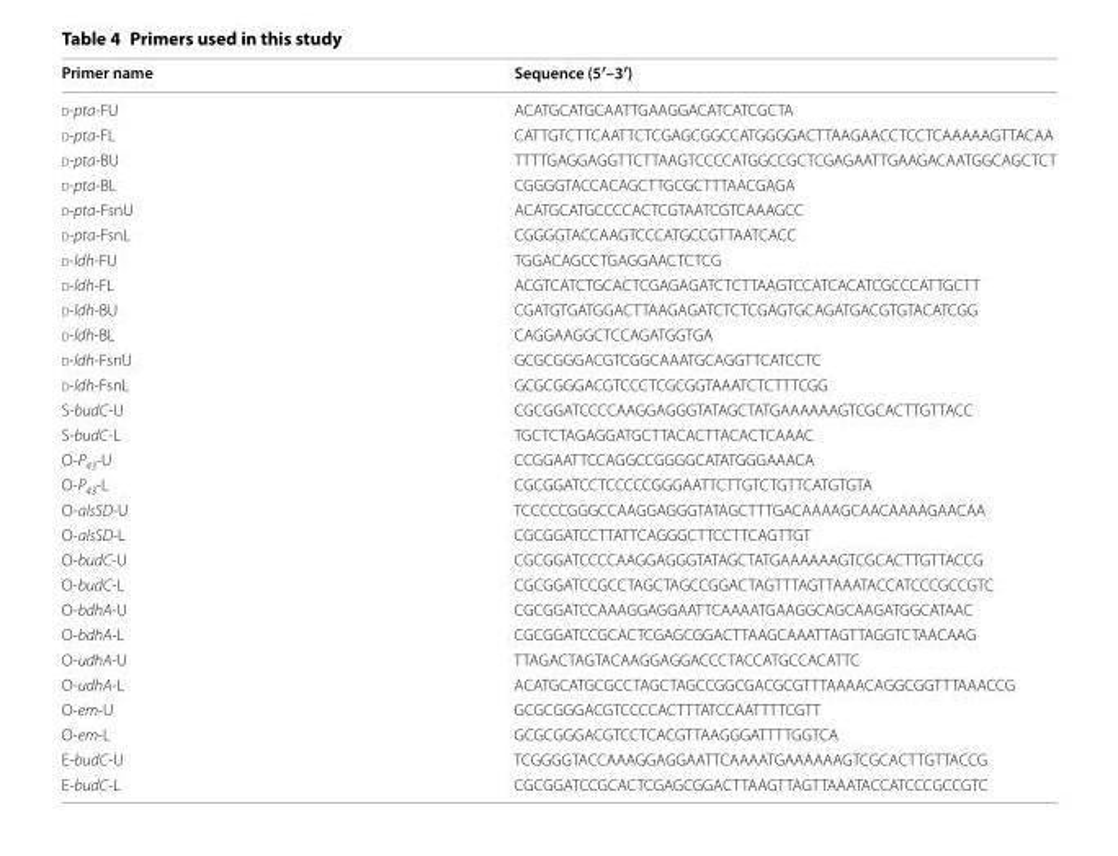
<table><thead><tr><td>Primer name</td><td>Sequence (5′–3′)</td></tr></thead><tbody><tr><td>d-pta-FU</td><td>ACATGCATGCAATTGAAGGACATCATCGCTA</td></tr><tr><td>d-pta-FL</td><td>CATTGTCTTCAATTCTCGAGCGGCCATGGGGACTTAAGAACCTCCTCAAAAAGTTACAA</td></tr><tr><td>d-pta-BU</td><td>TTTTGAGGAGGTTCTTAAGTCCCCATGGCCGCTCGAGAATTGAAGACAATGGCAGCTCT</td></tr><tr><td>d-pta-BL</td><td>CGGGGTACCACAGCTTGCGCTTTAACGAGA</td></tr><tr><td>d-pta-FsnU</td><td>ACATGCATGCCCCACTCGTAATCGTCAAAGCC</td></tr><tr><td>d-pta-FsnL</td><td>CGGGGTACCAAGTCCCATGCCGTTAATCACC</td></tr><tr><td>d-ldh-FU</td><td>TGGACAGCCTGAGGAACTCTCG</td></tr><tr><td>d-ldh-FL</td><td>ACGTCATCTGCACTCGAGAGATCTCTTAAGTCCATCACATCGCCCATTGCTT</td></tr><tr><td>d-ldh-BU</td><td>CGATGTGATGGACTTAAGAGATCTCTCGAGTGCAGATGACGTGTACATCGG</td></tr><tr><td>d-ldh-BL</td><td>CAGGAAGGCTCCAGATGGTGA</td></tr><tr><td>d-ldh-FsnU</td><td>GCGCGGGACGTCGGCAAATGCAGGTTCATCCTC</td></tr><tr><td>d-ldh-FsnL</td><td>GCGCGGGACGTCCCTCGCGGTAAATCTCTTTCGG</td></tr><tr><td>S-budC-U</td><td>CGCGGATCCCCAAGGAGGGTATAGCTATGAAAAAAGTCGCACTTGTTACC</td></tr><tr><td>S-budC-L</td><td>TGCTCTAGAGGATGCTTACACTTACACTCAAAC</td></tr><tr><td>O-P<sub>43</sub>-U</td><td>CCGGAATTCCAGGCCGGGGCATATGGGAAACA</td></tr><tr><td>O-P<sub>43</sub>-L</td><td>CGCGGATCCTCCCCCGGGAATTCTTGTCTGTTCATGTGTA</td></tr><tr><td>O-alsSD-U</td><td>TCCCCCGGGCCAAGGAGGGTATAGCTTTGACAAAAGCAACAAAAGAACAA</td></tr><tr><td>O-alsSD-L</td><td>CGCGGATCCTTATTCAGGGCTTCCTTCAGTTGT</td></tr><tr><td>O-budC-U</td><td>CGCGGATCCCCAAGGAGGGTATAGCTATGAAAAAAGTCGCACTTGTTACCG</td></tr><tr><td>O-budC-L</td><td>CGCGGATCCGCCTAGCTAGCCGGACTAGTTTAGTTAAATACCATCCCGCCGTC</td></tr><tr><td>O-bdhA-U</td><td>CGCGGATCCAAAGGAGGAATTCAAAATGAAGGCAGCAAGATGGCATAAC</td></tr><tr><td>O-bdhA-L</td><td>CGCGGATCCGCACTCGAGCGGACTTAAGCAAATTAGTTAGGTCTAACAAG</td></tr><tr><td>O-udhA-U</td><td>TTAGACTAGTACAAGGAGGACCCTACCATGCCACATTC</td></tr><tr><td>O-udhA-L</td><td>ACATGCATGCGCCTAGCTAGCCGGCGACGCGTTTAAAACAGGCGGTTTAAACCG</td></tr><tr><td>O-em-U</td><td>GCGCGGGACGTCCCCACTTTATCCAATTTTCGTT</td></tr><tr><td>O-em-L</td><td>GCGCGGGACGTCCTCACGTTAAGGGATTTTGGTCA</td></tr><tr><td>E-budC-U</td><td>TCGGGGTACCAAAGGAGGAATTCAAAATGAAAAAAGTCGCACTTGTTACCG</td></tr><tr><td>E-budC-L</td><td>CGCGGATCCGCACTCGAGCGGACTTAAGTTAGTTAAATACCATCCCGCCGTC</td></tr></tbody></table>